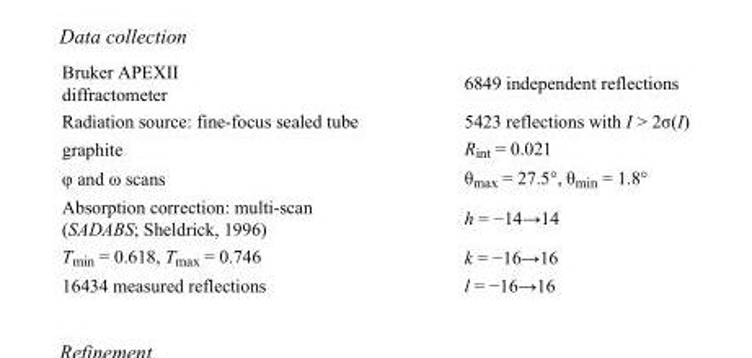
<table><tbody><tr><td>Bruker APEXII diffractometer</td><td>6849 independent reflections</td></tr><tr><td>Radiation source: fine-focus sealed tube</td><td>5423 reflections with I &gt; 2σ(I)</td></tr><tr><td>graphite</td><td>R<sub>int</sub> = 0.021</td></tr><tr><td>φ and ω scans</td><td>θ<sub>max</sub> = 27.5°, θ<sub>min</sub> = 1.8°</td></tr><tr><td>Absorption correction: multi-scan (SADABS; Sheldrick, 1996)</td><td>h = −14→14</td></tr><tr><td>T<sub>min</sub> = 0.618, T<sub>max</sub> = 0.746</td><td>k = −16→16</td></tr><tr><td>16434 measured reflections</td><td>l = −16→16</td></tr></tbody></table>